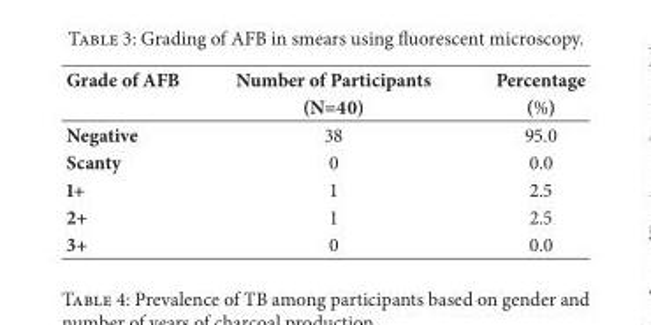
<table><thead><tr><td rowspan="2">Grade of AFB</td><td rowspan="2">Number of Participants (N=40)</td><td rowspan="2">Percentage (%)</td></tr><tr></tr></thead><tbody><tr><td>Negative</td><td>38</td><td>95.0</td></tr><tr><td>Scanty</td><td>0</td><td>0.0</td></tr><tr><td>1+</td><td>1</td><td>2.5</td></tr><tr><td>2+</td><td>1</td><td>2.5</td></tr><tr><td>3+</td><td>0</td><td>0.0</td></tr></tbody></table>